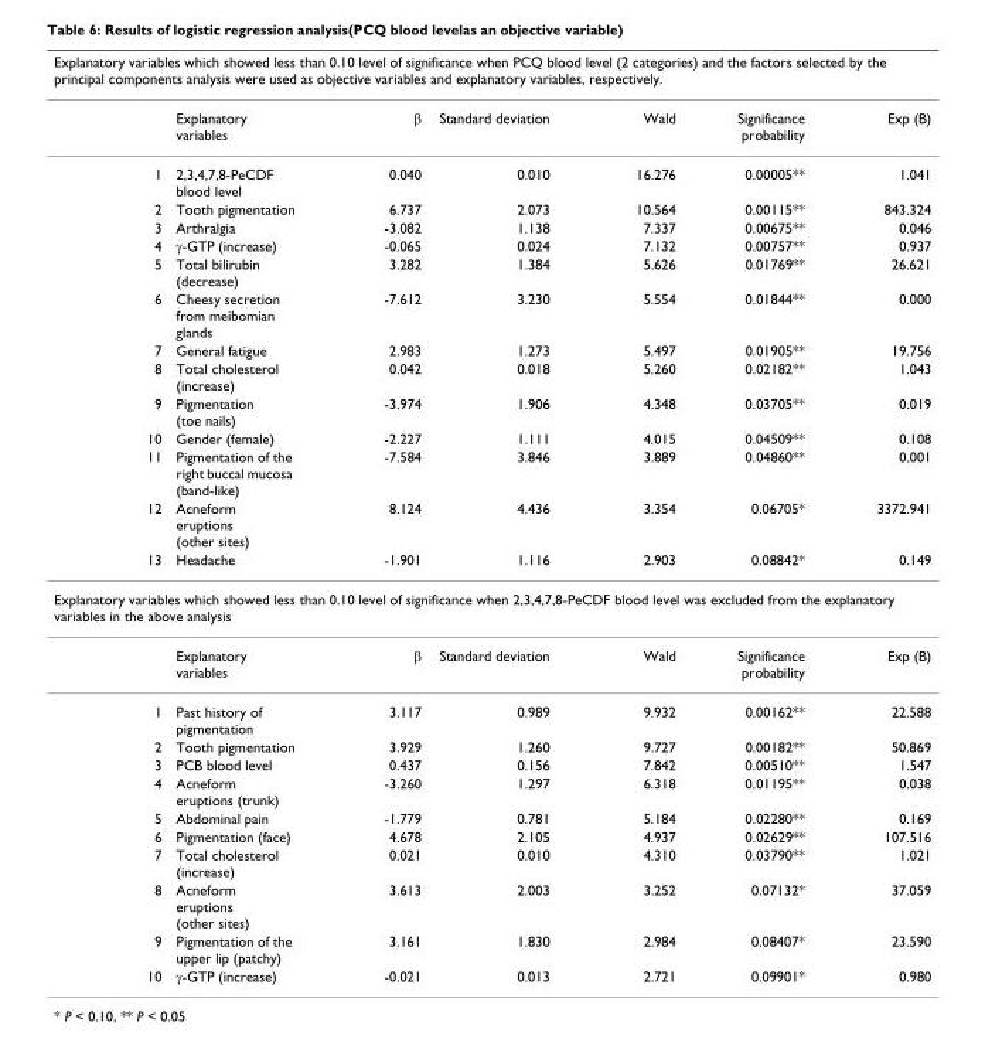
<table><thead><tr><td colspan="7">Explanatory variables which showed less than 0.10 level of significance when PCQ blood level (2 categories) and the factors selected by the principal components analysis were used as objective variables and explanatory variables, respectively.</td></tr><tr><td></td><td>Explanatory variables</td><td>β</td><td>Standard deviation</td><td>Wald</td><td>Significance probability</td><td>Exp (B)</td></tr></thead><tbody><tr><td>1</td><td>2,3,4,7,8-PeCDF blood level</td><td>0.040</td><td>0.010</td><td>16.276</td><td>0.00005**</td><td>1.041</td></tr><tr><td>2</td><td>Tooth pigmentation</td><td>6.737</td><td>2.073</td><td>10.564</td><td>0.00115**</td><td>843.324</td></tr><tr><td>3</td><td>Arthralgia</td><td>-3.082</td><td>1.138</td><td>7.337</td><td>0.00675**</td><td>0.046</td></tr><tr><td>4</td><td>γ-GTP (increase)</td><td>-0.065</td><td>0.024</td><td>7.132</td><td>0.00757**</td><td>0.937</td></tr><tr><td>5</td><td>Total bilirubin (decrease)</td><td>3.282</td><td>1.384</td><td>5.626</td><td>0.01769**</td><td>26.621</td></tr><tr><td>6</td><td>Cheesy secretion from meibomian glands</td><td>-7.612</td><td>3.230</td><td>5.554</td><td>0.01844**</td><td>0.000</td></tr><tr><td>7</td><td>General fatigue</td><td>2.983</td><td>1.273</td><td>5.497</td><td>0.01905**</td><td>19.756</td></tr><tr><td>8</td><td>Total cholesterol (increase)</td><td>0.042</td><td>0.018</td><td>5.260</td><td>0.02182**</td><td>1.043</td></tr><tr><td>9</td><td>Pigmentation (toe nails)</td><td>-3.974</td><td>1.906</td><td>4.348</td><td>0.03705**</td><td>0.019</td></tr><tr><td>10</td><td>Gender (female)</td><td>-2.227</td><td>1.111</td><td>4.015</td><td>0.04509**</td><td>0.108</td></tr><tr><td>11</td><td>Pigmentation of the right buccal mucosa (band-like)</td><td>-7.584</td><td>3.846</td><td>3.889</td><td>0.04860**</td><td>0.001</td></tr><tr><td>12</td><td>Acneform eruptions (other sites)</td><td>8.124</td><td>4.436</td><td>3.354</td><td>0.06705*</td><td>3372.941</td></tr><tr><td>13</td><td>Headache</td><td>-1.901</td><td>1.116</td><td>2.903</td><td>0.08842*</td><td>0.149</td></tr><tr><td colspan="7">Explanatory variables which showed less than 0.10 level of significance when 2,3,4,7,8-PeCDF blood level was excluded from the explanatory variables in the above analysis</td></tr><tr><td></td><td>Explanatory variables</td><td>β</td><td>Standard deviation</td><td>Wald</td><td>Significance probability</td><td>Exp (B)</td></tr><tr><td>1</td><td>Past history of pigmentation</td><td>3.117</td><td>0.989</td><td>9.932</td><td>0.00162**</td><td>22.588</td></tr><tr><td>2</td><td>Tooth pigmentation</td><td>3.929</td><td>1.260</td><td>9.727</td><td>0.00182**</td><td>50.869</td></tr><tr><td>3</td><td>PCB blood level</td><td>0.437</td><td>0.156</td><td>7.842</td><td>0.00510**</td><td>1.547</td></tr><tr><td>4</td><td>Acneform eruptions (trunk)</td><td>-3.260</td><td>1.297</td><td>6.318</td><td>0.01195**</td><td>0.038</td></tr><tr><td>5</td><td>Abdominal pain</td><td>-1.779</td><td>0.781</td><td>5.184</td><td>0.02280**</td><td>0.169</td></tr><tr><td>6</td><td>Pigmentation (face)</td><td>4.678</td><td>2.105</td><td>4.937</td><td>0.02629**</td><td>107.516</td></tr><tr><td>7</td><td>Total cholesterol (increase)</td><td>0.021</td><td>0.010</td><td>4.310</td><td>0.03790**</td><td>1.021</td></tr><tr><td>8</td><td>Acneform eruptions (other sites)</td><td>3.613</td><td>2.003</td><td>3.252</td><td>0.07132*</td><td>37.059</td></tr><tr><td>9</td><td>Pigmentation of the upper lip (patchy)</td><td>3.161</td><td>1.830</td><td>2.984</td><td>0.08407*</td><td>23.590</td></tr><tr><td>10</td><td>γ-GTP (increase)</td><td>-0.021</td><td>0.013</td><td>2.721</td><td>0.09901*</td><td>0.980</td></tr></tbody></table>